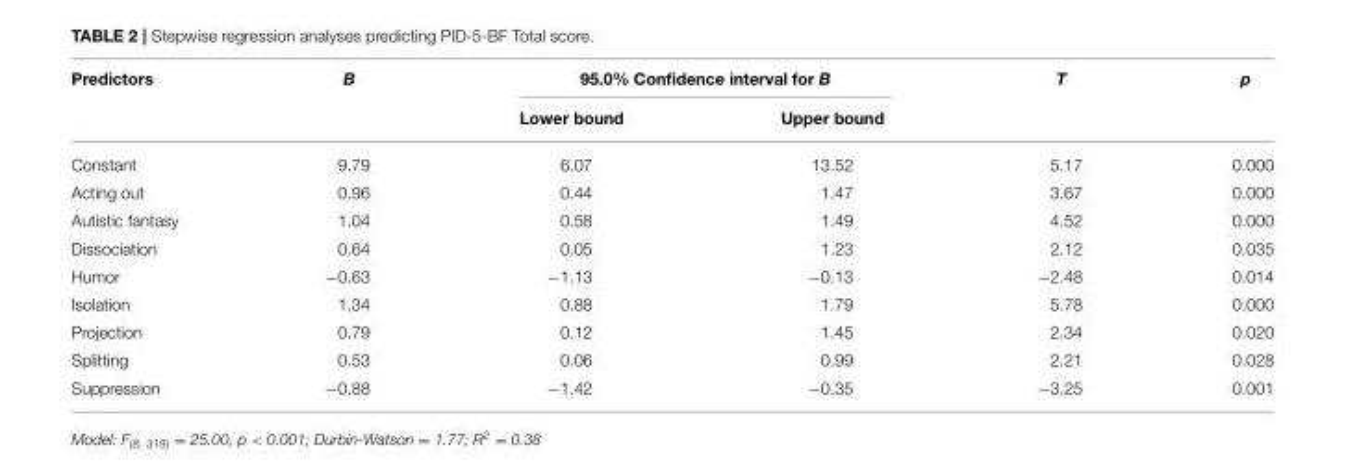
<table><thead><tr><td rowspan="2">Predictors</td><td rowspan="2">B</td><td colspan="2">95.0% Confidence interval for B</td><td rowspan="2">T</td><td rowspan="2">p</td></tr><tr><td>Lower bound</td><td>Upper bound</td></tr></thead><tbody><tr><td>Constant</td><td>9.79</td><td>6.07</td><td>13.52</td><td>5.17</td><td>0.000</td></tr><tr><td>Acting out</td><td>0.96</td><td>0.44</td><td>1.47</td><td>3.67</td><td>0.000</td></tr><tr><td>Autistic fantasy</td><td>1.04</td><td>0.58</td><td>1.49</td><td>4.52</td><td>0.000</td></tr><tr><td>Dissociation</td><td>0.64</td><td>0.05</td><td>1.23</td><td>2.12</td><td>0.035</td></tr><tr><td>Humor</td><td>−0.63</td><td>−1.13</td><td>−0.13</td><td>−2.48</td><td>0.014</td></tr><tr><td>Isolation</td><td>1.34</td><td>0.88</td><td>1.79</td><td>5.78</td><td>0.000</td></tr><tr><td>Projection</td><td>0.79</td><td>0.12</td><td>1.45</td><td>2.34</td><td>0.020</td></tr><tr><td>Splitting</td><td>0.53</td><td>0.06</td><td>0.99</td><td>2.21</td><td>0.028</td></tr><tr><td>Suppression</td><td>−0.88</td><td>−1.42</td><td>−0.35</td><td>−3.25</td><td>0.001</td></tr></tbody></table>